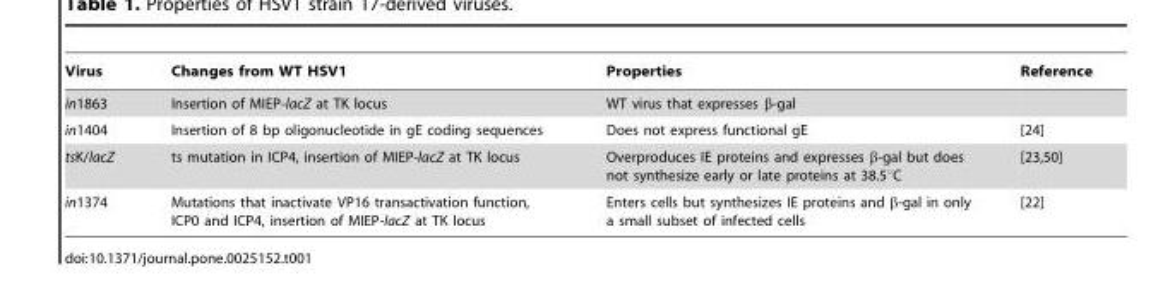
<table><thead><tr><td>Virus</td><td>Changes from WT HSV1</td><td>Properties</td><td>Reference</td></tr></thead><tbody><tr><td>in1863</td><td>Insertion of MIEP-lacZ at TK locus</td><td>WT virus that expresses β-gal</td><td></td></tr><tr><td>in1404</td><td>Insertion of 8 bp oligonucleotide in gE coding sequences</td><td>Does not express functional gE</td><td>[24]</td></tr><tr><td>tsK/lacZ</td><td>ts mutation in ICP4, insertion of MIEP-lacZ at TK locus</td><td>Overproduces IE proteins and expresses β-gal but does not synthesize early or late proteins at 38.5°C</td><td>[23,50]</td></tr><tr><td>in1374</td><td>Mutations that inactivate VP16 transactivation function, ICP0 and ICP4, insertion of MIEP-lacZ at TK locus</td><td>Enters cells but synthesizes IE proteins and β-gal in only a small subset of infected cells</td><td>[22]</td></tr></tbody></table>